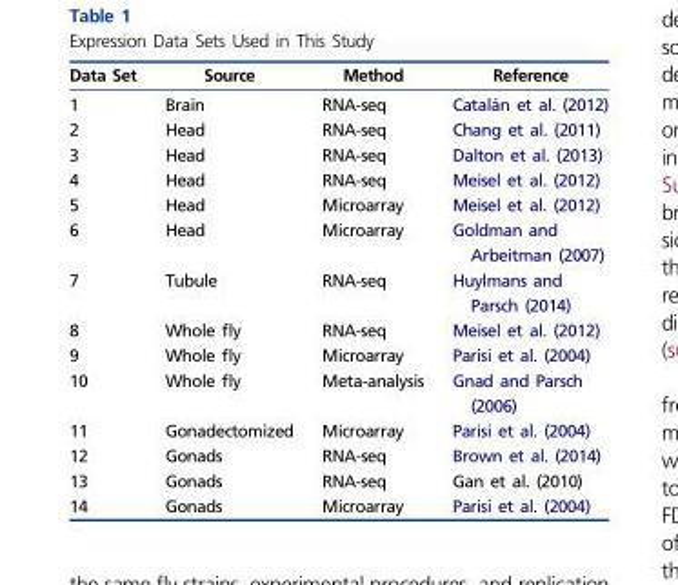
<table><thead><tr><td>Data Set</td><td>Source</td><td>Method</td><td>Reference</td></tr></thead><tbody><tr><td>1</td><td>Brain</td><td>RNA-seq</td><td>Catala´n et al. (2012)</td></tr><tr><td>2</td><td>Head</td><td>RNA-seq</td><td>Chang et al. (2011)</td></tr><tr><td>3</td><td>Head</td><td>RNA-seq</td><td>Dalton et al. (2013)</td></tr><tr><td>4</td><td>Head</td><td>RNA-seq</td><td>Meisel et al. (2012)</td></tr><tr><td>5</td><td>Head</td><td>Microarray</td><td>Meisel et al. (2012)</td></tr><tr><td>6</td><td>Head</td><td>Microarray</td><td>Goldman and Arbeitman (2007)</td></tr><tr><td>7</td><td>Tubule</td><td>RNA-seq</td><td>Huylmans and Parsch (2014)</td></tr><tr><td>8</td><td>Whole fly</td><td>RNA-seq</td><td>Meisel et al. (2012)</td></tr><tr><td>9</td><td>Whole fly</td><td>Microarray</td><td>Parisi et al. (2004)</td></tr><tr><td>10</td><td>Whole fly</td><td>Meta-analysis</td><td>Gnad and Parsch (2006)</td></tr><tr><td>11</td><td>Gonadectomized</td><td>Microarray</td><td>Parisi et al. (2004)</td></tr><tr><td>12</td><td>Gonads</td><td>RNA-seq</td><td>Brown et al. (2014)</td></tr><tr><td>13</td><td>Gonads</td><td>RNA-seq</td><td>Gan et al. (2010)</td></tr><tr><td>14</td><td>Gonads</td><td>Microarray</td><td>Parisi et al. (2004)</td></tr></tbody></table>